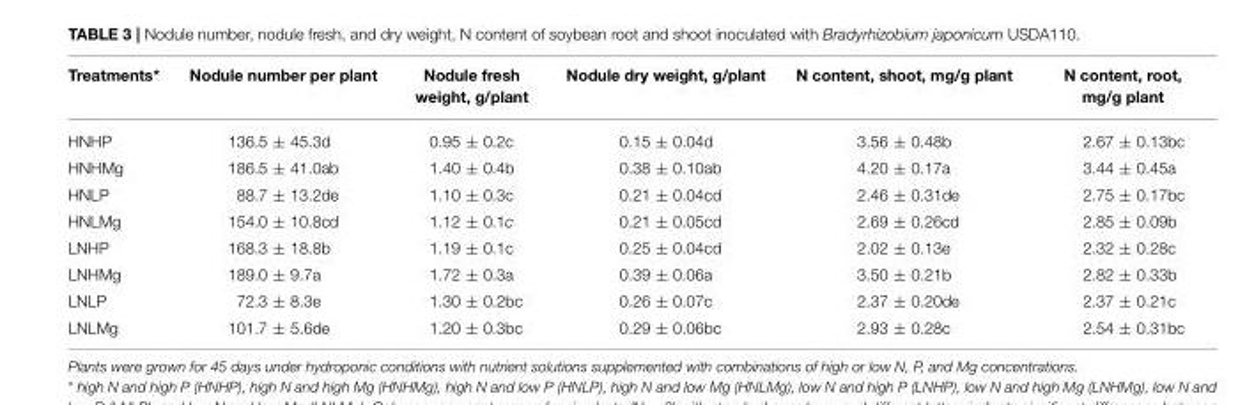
<table><thead><tr><td>Treatments*</td><td>Nodule number per plant</td><td>Nodule fresh weight, g/plant</td><td>Nodule dry weight, g/plant</td><td>N content, shoot, mg/g plant</td><td>N content, root, mg/g plant</td></tr></thead><tbody><tr><td>HNHP</td><td>136.5 ± 45.3d</td><td>0.95 ± 0.2c</td><td>0.15 ± 0.04d</td><td>3.56 ± 0.48b</td><td>2.67 ± 0.13bc</td></tr><tr><td>HNHMg</td><td>186.5 ± 41.0ab</td><td>1.40 ± 0.4b</td><td>0.38 ± 0.10ab</td><td>4.20 ± 0.17a</td><td>3.44 ± 0.45a</td></tr><tr><td>HNLP</td><td>88.7 ± 13.2de</td><td>1.10 ± 0.3c</td><td>0.21 ± 0.04cd</td><td>2.46 ± 0.31de</td><td>2.75 ± 0.17bc</td></tr><tr><td>HNLMg</td><td>154.0 ± 10.8cd</td><td>1.12 ± 0.1c</td><td>0.21 ± 0.05cd</td><td>2.69 ± 0.26cd</td><td>2.85 ± 0.09b</td></tr><tr><td>LNHP</td><td>168.3 ± 18.8b</td><td>1.19 ± 0.1c</td><td>0.25 ± 0.04cd</td><td>2.02 ± 0.13e</td><td>2.32 ± 0.28c</td></tr><tr><td>LNHMg</td><td>189.0 ± 9.7a</td><td>1.72 ± 0.3a</td><td>0.39 ± 0.06a</td><td>3.50 ± 0.21b</td><td>2.82 ± 0.33b</td></tr><tr><td>LNLP</td><td>72.3 ± 8.3e</td><td>1.30 ± 0.2bc</td><td>0.26 ± 0.07c</td><td>2.37 ± 0.20de</td><td>2.37 ± 0.21c</td></tr><tr><td>LNLMg</td><td>101.7 ± 5.6de</td><td>1.20 ± 0.3bc</td><td>0.29 ± 0.06bc</td><td>2.93 ± 0.28c</td><td>2.54 ± 0.31bc</td></tr></tbody></table>